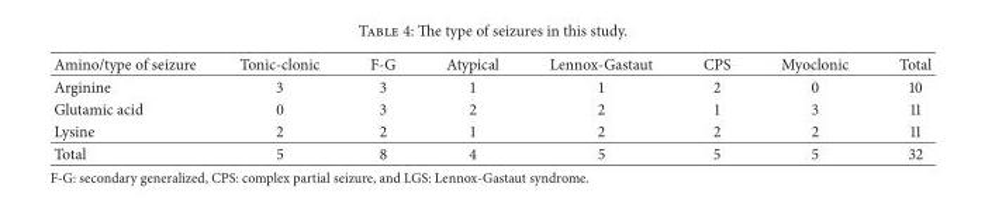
<table><thead><tr><td>Amino/type of seizure</td><td>Tonic-clonic</td><td>F-G</td><td>Atypical</td><td>Lennox-Gastaut</td><td>CPS</td><td>Myoclonic</td><td>Total</td></tr></thead><tbody><tr><td>Arginine</td><td>3</td><td>3</td><td>1</td><td>1</td><td>2</td><td>0</td><td>10</td></tr><tr><td>Glutamic acid</td><td>0</td><td>3</td><td>2</td><td>2</td><td>1</td><td>3</td><td>11</td></tr><tr><td>Lysine</td><td>2</td><td>2</td><td>1</td><td>2</td><td>2</td><td>2</td><td>11</td></tr><tr><td>Total</td><td>5</td><td>8</td><td>4</td><td>5</td><td>5</td><td>5</td><td>32</td></tr></tbody></table>